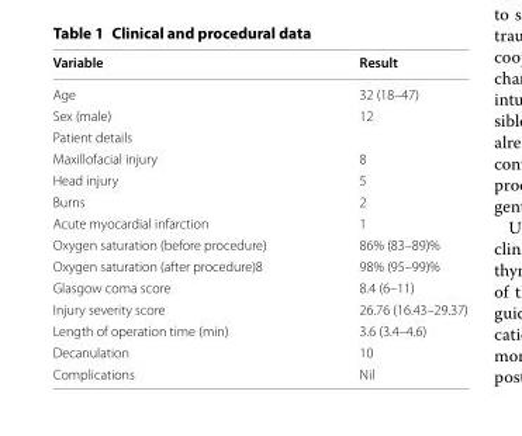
<table><thead><tr><td>Variable</td><td>Result</td></tr></thead><tbody><tr><td>Age</td><td>32 (18–47)</td></tr><tr><td>Sex (male)</td><td>12</td></tr><tr><td colspan="2">Patient details</td></tr><tr><td>Maxillofacial injury</td><td>8</td></tr><tr><td>Head injury</td><td>5</td></tr><tr><td>Burns</td><td>2</td></tr><tr><td>Acute myocardial infarction</td><td>1</td></tr><tr><td>Oxygen saturation (before procedure)</td><td>86% (83–89)%</td></tr><tr><td>Oxygen saturation (after procedure)8</td><td>98% (95–99)%</td></tr><tr><td>Glasgow coma score</td><td>8.4 (6–11)</td></tr><tr><td>Injury severity score</td><td>26.76 (16.43–29.37)</td></tr><tr><td>Length of operation time (min)</td><td>3.6 (3.4–4.6)</td></tr><tr><td>Decanulation</td><td>10</td></tr><tr><td>Complications</td><td>Nil</td></tr></tbody></table>